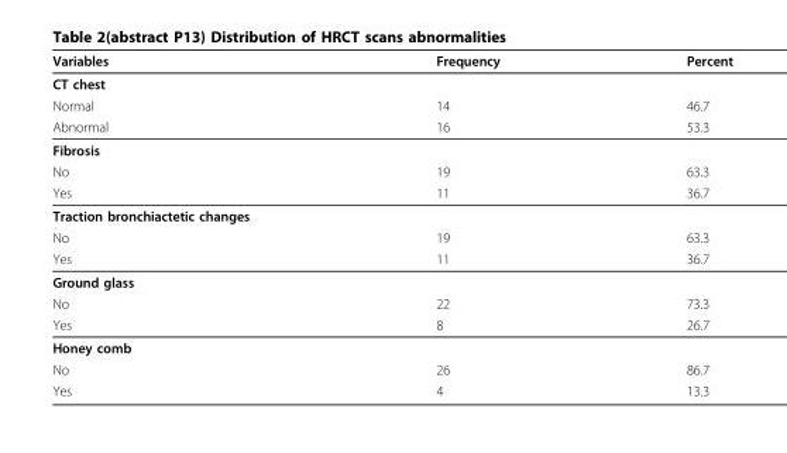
<table><thead><tr><td>Variables</td><td>Frequency</td><td>Percent</td></tr></thead><tbody><tr><td colspan="3">CT chest</td></tr><tr><td>Normal</td><td>14</td><td>46.7</td></tr><tr><td>Abnormal</td><td>16</td><td>53.3</td></tr><tr><td colspan="3">Fibrosis</td></tr><tr><td>No</td><td>19</td><td>63.3</td></tr><tr><td>Yes</td><td>11</td><td>36.7</td></tr><tr><td colspan="3">Traction bronchiactetic changes</td></tr><tr><td>No</td><td>19</td><td>63.3</td></tr><tr><td>Yes</td><td>11</td><td>36.7</td></tr><tr><td colspan="3">Ground glass</td></tr><tr><td>No</td><td>22</td><td>73.3</td></tr><tr><td>Yes</td><td>8</td><td>26.7</td></tr><tr><td colspan="3">Honey comb</td></tr><tr><td>No</td><td>26</td><td>86.7</td></tr><tr><td>Yes</td><td>4</td><td>13.3</td></tr></tbody></table>